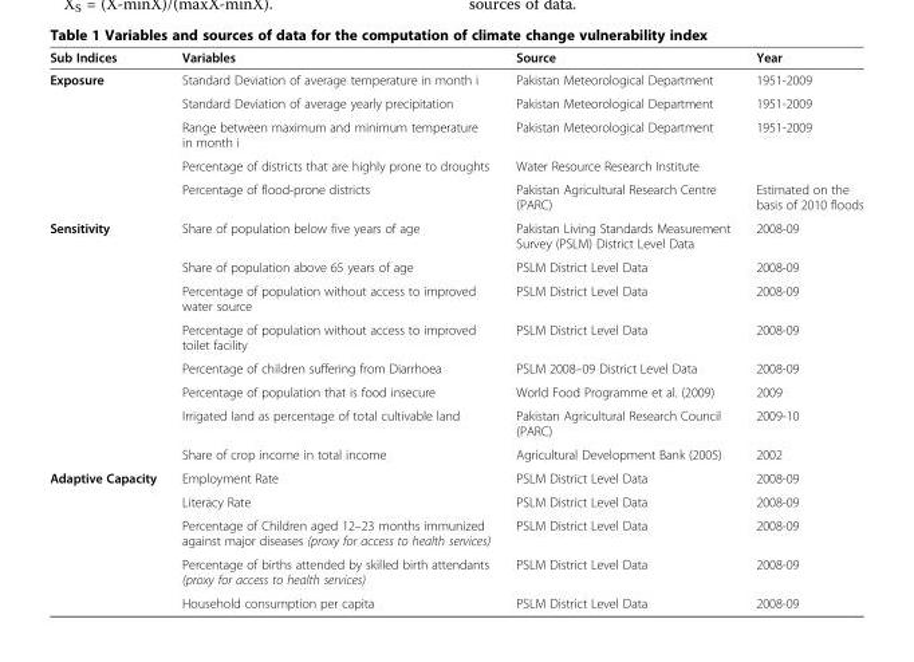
<table><thead><tr><td>Sub Indices</td><td>Variables</td><td>Source</td><td>Year</td></tr></thead><tbody><tr><td rowspan="5">Exposure</td><td>Standard Deviation of average temperature in month i</td><td>Pakistan Meteorological Department</td><td>1951-2009</td></tr><tr><td>Standard Deviation of average yearly precipitation</td><td>Pakistan Meteorological Department</td><td>1951-2009</td></tr><tr><td>Range between maximum and minimum temperature in month i</td><td>Pakistan Meteorological Department</td><td>1951-2009</td></tr><tr><td>Percentage of districts that are highly prone to droughts</td><td>Water Resource Research Institute</td><td></td></tr><tr><td>Percentage of flood-prone districts</td><td>Pakistan Agricultural Research Centre (PARC)</td><td>Estimated on the basis of 2010 floods</td></tr><tr><td rowspan="8">Sensitivity</td><td>Share of population below five years of age</td><td>Pakistan Living Standards Measurement Survey (PSLM) District Level Data</td><td>2008-09</td></tr><tr><td>Share of population above 65 years of age</td><td>PSLM District Level Data</td><td>2008-09</td></tr><tr><td>Percentage of population without access to improved water source</td><td>PSLM District Level Data</td><td>2008-09</td></tr><tr><td>Percentage of population without access to improved toilet facility</td><td>PSLM District Level Data</td><td>2008-09</td></tr><tr><td>Percentage of children suffering from Diarrhoea</td><td>PSLM 2008–09 District Level Data</td><td>2008-09</td></tr><tr><td>Percentage of population that is food insecure</td><td>World Food Programme et al. (2009)</td><td>2009</td></tr><tr><td>Irrigated land as percentage of total cultivable land</td><td>Pakistan Agricultural Research Council (PARC)</td><td>2009-10</td></tr><tr><td>Share of crop income in total income</td><td>Agricultural Development Bank (2005)</td><td>2002</td></tr><tr><td rowspan="5">Adaptive Capacity</td><td>Employment Rate</td><td>PSLM District Level Data</td><td>2008-09</td></tr><tr><td>Literacy Rate</td><td>PSLM District Level Data</td><td>2008-09</td></tr><tr><td>Percentage of Children aged 12–23 months immunized against major diseases (proxy for access to health services)</td><td>PSLM District Level Data</td><td>2008-09</td></tr><tr><td>Percentage of births attended by skilled birth attendants (proxy for access to health services)</td><td>PSLM District Level Data</td><td>2008-09</td></tr><tr><td>Household consumption per capita</td><td>PSLM District Level Data</td><td>2008-09</td></tr></tbody></table>